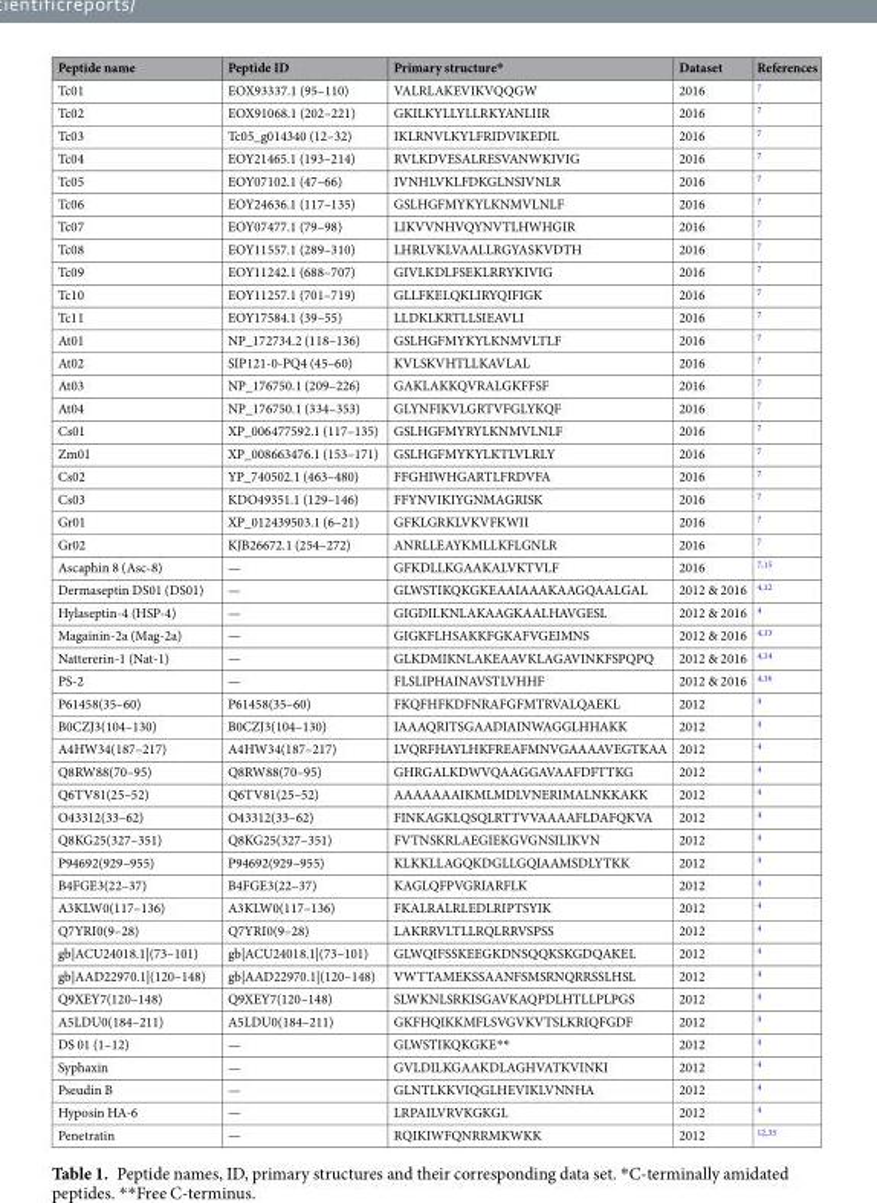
<table><thead><tr><td>Peptide name</td><td>Peptide ID</td><td>Primary structure*</td><td>Dataset</td><td>References</td></tr></thead><tbody><tr><td>Tc01</td><td>EOX93337.1 (95–110)</td><td>VALRLAKEVIKVQQGW</td><td>2016</td><td><sup>7</sup></td></tr><tr><td>Tc02</td><td>EOX91068.1 (202–221)</td><td>GKILKYLLYLLRKYANLIIR</td><td>2016</td><td><sup>7</sup></td></tr><tr><td>Tc03</td><td>Tc05_g014340 (12–32)</td><td>IKLRNVLKYLFRIDVIKEDIL</td><td>2016</td><td><sup>7</sup></td></tr><tr><td>Tc04</td><td>EOY21465.1 (193–214)</td><td>RVLKDVESALRESVANWKIVIG</td><td>2016</td><td><sup>7</sup></td></tr><tr><td>Tc05</td><td>EOY07102.1 (47–66)</td><td>IVNHLVKLFDKGLNSIVNLR</td><td>2016</td><td><sup>7</sup></td></tr><tr><td>Tc06</td><td>EOY24636.1 (117–135)</td><td>GSLHGFMYKYLKNMVLNLF</td><td>2016</td><td><sup>7</sup></td></tr><tr><td>Tc07</td><td>EOY07477.1 (79–98)</td><td>LIKVVNHVQYNVTLHWHGIR</td><td>2016</td><td><sup>7</sup></td></tr><tr><td>Tc08</td><td>EOY11557.1 (289–310)</td><td>LHRLVKLVAALLRGYASKVDTH</td><td>2016</td><td><sup>7</sup></td></tr><tr><td>Tc09</td><td>EOY11242.1 (688–707)</td><td>GIVLKDLFSEKLRRYKIVIG</td><td>2016</td><td><sup>7</sup></td></tr><tr><td>Tc10</td><td>EOY11257.1 (701–719)</td><td>GLLFKELQKLIRYQIFIGK</td><td>2016</td><td><sup>7</sup></td></tr><tr><td>Tc11</td><td>EOY17584.1 (39–55)</td><td>LLDKLKRTLLSIEAVLI</td><td>2016</td><td><sup>7</sup></td></tr><tr><td>At01</td><td>NP_172734.2 (118–136)</td><td>GSLHGFMYKYLKNMVLTLF</td><td>2016</td><td><sup>7</sup></td></tr><tr><td>At02</td><td>SIP121-0-PQ4 (45–60)</td><td>KVLSKVHTLLKAVLAL</td><td>2016</td><td><sup>7</sup></td></tr><tr><td>At03</td><td>NP_176750.1 (209–226)</td><td>GAKLAKKQVRALGKFFSF</td><td>2016</td><td><sup>7</sup></td></tr><tr><td>At04</td><td>NP_176750.1 (334–353)</td><td>GLYNFIKVLGRTVFGLYKQF</td><td>2016</td><td><sup>7</sup></td></tr><tr><td>Cs01</td><td>XP_006477592.1 (117–135)</td><td>GSLHGFMYRYLKNMVLNLF</td><td>2016</td><td><sup>7</sup></td></tr><tr><td>Zm01</td><td>XP_008663476.1 (153–171)</td><td>GSLHGFMYKYLKTLVLRLY</td><td>2016</td><td><sup>7</sup></td></tr><tr><td>Cs02</td><td>YP_740502.1 (463–480)</td><td>FFGHIWHGARTLFRDVFA</td><td>2016</td><td><sup>7</sup></td></tr><tr><td>Cs03</td><td>KDO49351.1 (129–146)</td><td>FFYNVIKIYGNMAGRISK</td><td>2016</td><td><sup>7</sup></td></tr><tr><td>Gr01</td><td>XP_012439503.1 (6–21)</td><td>GFKLGRKLVKVFKWII</td><td>2016</td><td><sup>7</sup></td></tr><tr><td>Gr02</td><td>KJB26672.1 (254–272)</td><td>ANRLLEAYKMLLKFLGNLR</td><td>2016</td><td><sup>7</sup></td></tr><tr><td>Ascaphin 8 (Asc-8)</td><td>—</td><td>GFKDLLKGAAKALVKTVLF</td><td>2016</td><td><sup>7,15</sup></td></tr><tr><td>Dermaseptin DS01 (DS01)</td><td>—</td><td>GLWSTIKQKGKEAAIAAAKAAGQAALGAL</td><td>2012 &amp; 2016</td><td><sup>4,12</sup></td></tr><tr><td>Hylaseptin-4 (HSP-4)</td><td>—</td><td>GIGDILKNLAKAAGKAALHAVGESL</td><td>2012 &amp; 2016</td><td><sup>4</sup></td></tr><tr><td>Magainin-2a (Mag-2a)</td><td>—</td><td>GIGKFLHSAKKFGKAFVGEIMNS</td><td>2012 &amp; 2016</td><td><sup>4,13</sup></td></tr><tr><td>Nattererin-1 (Nat-1)</td><td>—</td><td>GLKDMIKNLAKEAAVKLAGAVINKFSPQPQ</td><td>2012 &amp; 2016</td><td><sup>4,14</sup></td></tr><tr><td>PS-2</td><td>—</td><td>FLSLIPHAINAVSTLVHHF</td><td>2012 &amp; 2016</td><td><sup>4,16</sup></td></tr><tr><td>P61458(35–60)</td><td>P61458(35–60)</td><td>FKQFHFKDFNRAFGFMTRVALQAEKL</td><td>2012</td><td><sup>4</sup></td></tr><tr><td>B0CZJ3(104–130)</td><td>B0CZJ3(104–130)</td><td>IAAAQRITSGAADIAINWAGGLHHAKK</td><td>2012</td><td><sup>4</sup></td></tr><tr><td>A4HW34(187–217)</td><td>A4HW34(187–217)</td><td>LVQRFHAYLHKFREAFMNVGAAAAVEGTKAA</td><td>2012</td><td><sup>4</sup></td></tr><tr><td>Q8RW88(70–95)</td><td>Q8RW88(70–95)</td><td>GHRGALKDWVQAAGGAVAAFDFTTKG</td><td>2012</td><td><sup>4</sup></td></tr><tr><td>Q6TV81(25–52)</td><td>Q6TV81(25–52)</td><td>AAAAAAAIKMLMDLVNERIMALNKKAKK</td><td>2012</td><td><sup>4</sup></td></tr><tr><td>O43312(33–62)</td><td>O43312(33–62)</td><td>FINKAGKLQSQLRTTVVAAAAFLDAFQKVA</td><td>2012</td><td><sup>4</sup></td></tr><tr><td>Q8KG25(327–351)</td><td>Q8KG25(327–351)</td><td>FVTNSKRLAEGIEKGVGNSILIKVN</td><td>2012</td><td><sup>4</sup></td></tr><tr><td>P94692(929–955)</td><td>P94692(929–955)</td><td>KLKKLLAGQKDGLLGQIAAMSDLYTKK</td><td>2012</td><td><sup>4</sup></td></tr><tr><td>B4FGE3(22–37)</td><td>B4FGE3(22–37)</td><td>KAGLQFPVGRIARFLK</td><td>2012</td><td><sup>4</sup></td></tr><tr><td>A3KLW0(117–136)</td><td>A3KLW0(117–136)</td><td>FKALRALRLEDLRIPTSYIK</td><td>2012</td><td><sup>4</sup></td></tr><tr><td>Q7YRI0(9–28)</td><td>Q7YRI0(9–28)</td><td>LAKRRVLTLLRQLRRVSPSS</td><td>2012</td><td><sup>4</sup></td></tr><tr><td>gb|ACU24018.1|(73–101)</td><td>gb|ACU24018.1|(73–101)</td><td>GLWQIFSSKEEGKDNSQQKSKGDQAKEL</td><td>2012</td><td><sup>4</sup></td></tr><tr><td>gb|AAD22970.1|(120–148)</td><td>gb|AAD22970.1|(120–148)</td><td>VWTTAMEKSSAANFSMSRNQRRSSLHSL</td><td>2012</td><td><sup>4</sup></td></tr><tr><td>Q9XEY7(120–148)</td><td>Q9XEY7(120–148)</td><td>SLWKNLSRKISGAVKAQPDLHTLLPLPGS</td><td>2012</td><td><sup>4</sup></td></tr><tr><td>A5LDU0(184–211)</td><td>A5LDU0(184–211)</td><td>GKFHQIKKMFLSVGVKVTSLKRIQFGDF</td><td>2012</td><td><sup>4</sup></td></tr><tr><td>DS 01 (1–12)</td><td>—</td><td>GLWSTIKQKGKE**</td><td>2012</td><td><sup>4</sup></td></tr><tr><td>Syphaxin</td><td>—</td><td>GVLDILKGAAKDLAGHVATKVINKI</td><td>2012</td><td><sup>4</sup></td></tr><tr><td>Pseudin B</td><td>—</td><td>GLNTLKKVIQGLHEVIKLVNNHA</td><td>2012</td><td><sup>4</sup></td></tr><tr><td>Hyposin HA-6</td><td>—</td><td>LRPAILVRVKGKGL</td><td>2012</td><td><sup>4</sup></td></tr><tr><td>Penetratin</td><td>—</td><td>RQIKIWFQNRRMKWKK</td><td>2012</td><td><sup>12,33</sup></td></tr></tbody></table>